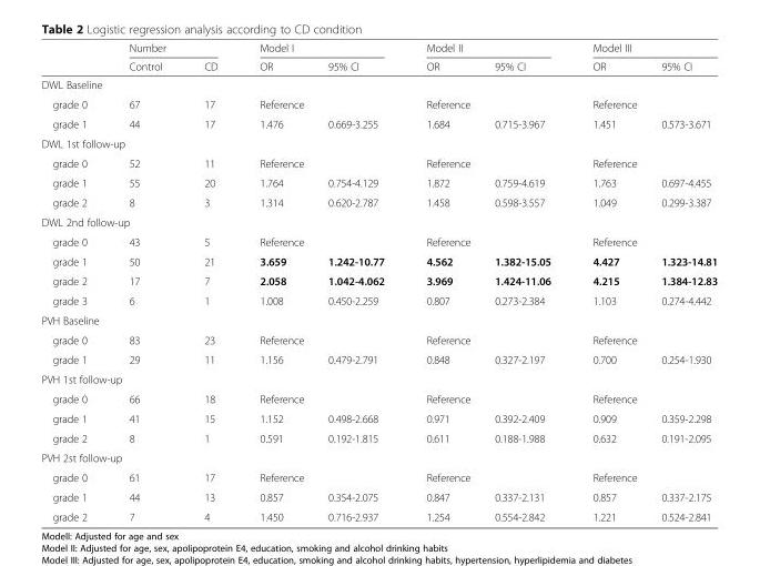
<table><thead><tr><td rowspan="2"></td><td colspan="2">Number</td><td colspan="2">Model I</td><td colspan="2">Model II</td><td colspan="2">Model III</td></tr><tr><td>Control</td><td>CD</td><td>OR</td><td>95% CI</td><td>OR</td><td>95% CI</td><td>OR</td><td>95% CI</td></tr></thead><tbody><tr><td colspan="9">DWL Baseline</td></tr><tr><td>grade 0</td><td>67</td><td>17</td><td colspan="2">Reference</td><td colspan="2">Reference</td><td colspan="2">Reference</td></tr><tr><td>grade 1</td><td>44</td><td>17</td><td>1.476</td><td>0.669-3.255</td><td>1.684</td><td>0.715-3.967</td><td>1.451</td><td>0.573-3.671</td></tr><tr><td colspan="9">DWL 1st follow-up</td></tr><tr><td>grade 0</td><td>52</td><td>11</td><td colspan="2">Reference</td><td colspan="2">Reference</td><td colspan="2">Reference</td></tr><tr><td>grade 1</td><td>55</td><td>20</td><td>1.764</td><td>0.754-4.129</td><td>1.872</td><td>0.759-4.619</td><td>1.763</td><td>0.697-4.455</td></tr><tr><td>grade 2</td><td>8</td><td>3</td><td>1.314</td><td>0.620-2.787</td><td>1.458</td><td>0.598-3.557</td><td>1.049</td><td>0.299-3.387</td></tr><tr><td colspan="9">DWL 2nd follow-up</td></tr><tr><td>grade 0</td><td>43</td><td>5</td><td colspan="2">Reference</td><td colspan="2">Reference</td><td colspan="2">Reference</td></tr><tr><td>grade 1</td><td>50</td><td>21</td><td>3.659</td><td>1.242-10.77</td><td>4.562</td><td>1.382-15.05</td><td>4.427</td><td>1.323-14.81</td></tr><tr><td>grade 2</td><td>17</td><td>7</td><td>2.058</td><td>1.042-4.062</td><td>3.969</td><td>1.424-11.06</td><td>4.215</td><td>1.384-12.83</td></tr><tr><td>grade 3</td><td>6</td><td>1</td><td>1.008</td><td>0.450-2.259</td><td>0.807</td><td>0.273-2.384</td><td>1.103</td><td>0.274-4.442</td></tr><tr><td colspan="9">PVH Baseline</td></tr><tr><td>grade 0</td><td>83</td><td>23</td><td colspan="2">Reference</td><td colspan="2">Reference</td><td colspan="2">Reference</td></tr><tr><td>grade 1</td><td>29</td><td>11</td><td>1.156</td><td>0.479-2.791</td><td>0.848</td><td>0.327-2.197</td><td>0.700</td><td>0.254-1.930</td></tr><tr><td colspan="9">PVH 1st follow-up</td></tr><tr><td>grade 0</td><td>66</td><td>18</td><td colspan="2">Reference</td><td colspan="2">Reference</td><td colspan="2">Reference</td></tr><tr><td>grade 1</td><td>41</td><td>15</td><td>1.152</td><td>0.498-2.668</td><td>0.971</td><td>0.392-2.409</td><td>0.909</td><td>0.359-2.298</td></tr><tr><td>grade 2</td><td>8</td><td>1</td><td>0.591</td><td>0.192-1.815</td><td>0.611</td><td>0.188-1.988</td><td>0.632</td><td>0.191-2.095</td></tr><tr><td colspan="9">PVH 2st follow-up</td></tr><tr><td>grade 0</td><td>61</td><td>17</td><td colspan="2">Reference</td><td colspan="2">Reference</td><td colspan="2">Reference</td></tr><tr><td>grade 1</td><td>44</td><td>13</td><td>0.857</td><td>0.354-2.075</td><td>0.847</td><td>0.337-2.131</td><td>0.857</td><td>0.337-2.175</td></tr><tr><td>grade 2</td><td>7</td><td>4</td><td>1.450</td><td>0.716-2.937</td><td>1.254</td><td>0.554-2.842</td><td>1.221</td><td>0.524-2.841</td></tr></tbody></table>